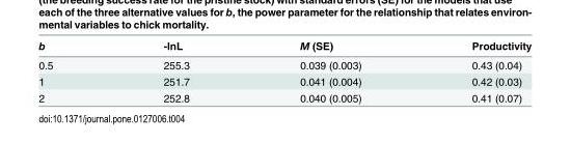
<table><thead><tr><td>b</td><td>-lnL</td><td>M (SE)</td><td>Productivity</td></tr></thead><tbody><tr><td>0.5</td><td>255.3</td><td>0.039 (0.003)</td><td>0.43 (0.04)</td></tr><tr><td>1</td><td>251.7</td><td>0.041 (0.004)</td><td>0.42 (0.03)</td></tr><tr><td>2</td><td>252.8</td><td>0.040 (0.005)</td><td>0.41 (0.07)</td></tr></tbody></table>